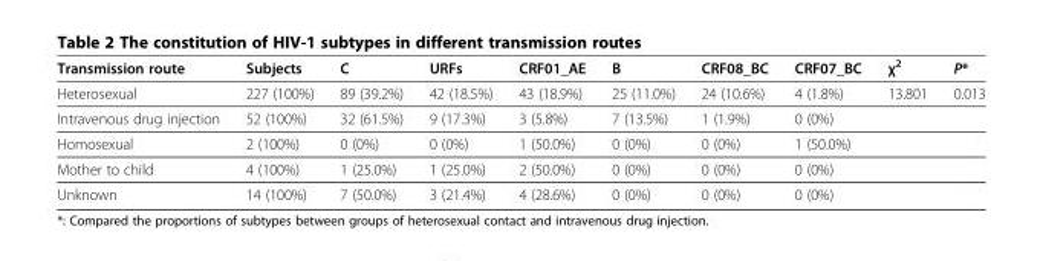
<table><thead><tr><td>Transmission route</td><td>Subjects</td><td>C</td><td>URFs</td><td>CRF01_AE</td><td>B</td><td>CRF08_BC</td><td>CRF07_BC</td><td>χ<sup>2</sup></td><td>P*</td></tr></thead><tbody><tr><td>Heterosexual</td><td>227 (100%)</td><td>89 (39.2%)</td><td>42 (18.5%)</td><td>43 (18.9%)</td><td>25 (11.0%)</td><td>24 (10.6%)</td><td>4 (1.8%)</td><td>13.801</td><td>0.013</td></tr><tr><td>Intravenous drug injection</td><td>52 (100%)</td><td>32 (61.5%)</td><td>9 (17.3%)</td><td>3 (5.8%)</td><td>7 (13.5%)</td><td>1 (1.9%)</td><td>0 (0%)</td><td></td><td></td></tr><tr><td>Homosexual</td><td>2 (100%)</td><td>0 (0%)</td><td>0 (0%)</td><td>1 (50.0%)</td><td>0 (0%)</td><td>0 (0%)</td><td>1 (50.0%)</td><td></td><td></td></tr><tr><td>Mother to child</td><td>4 (100%)</td><td>1 (25.0%)</td><td>1 (25.0%)</td><td>2 (50.0%)</td><td>0 (0%)</td><td>0 (0%)</td><td>0 (0%)</td><td></td><td></td></tr><tr><td>Unknown</td><td>14 (100%)</td><td>7 (50.0%)</td><td>3 (21.4%)</td><td>4 (28.6%)</td><td>0 (0%)</td><td>0 (0%)</td><td>0 (0%)</td><td></td><td></td></tr></tbody></table>